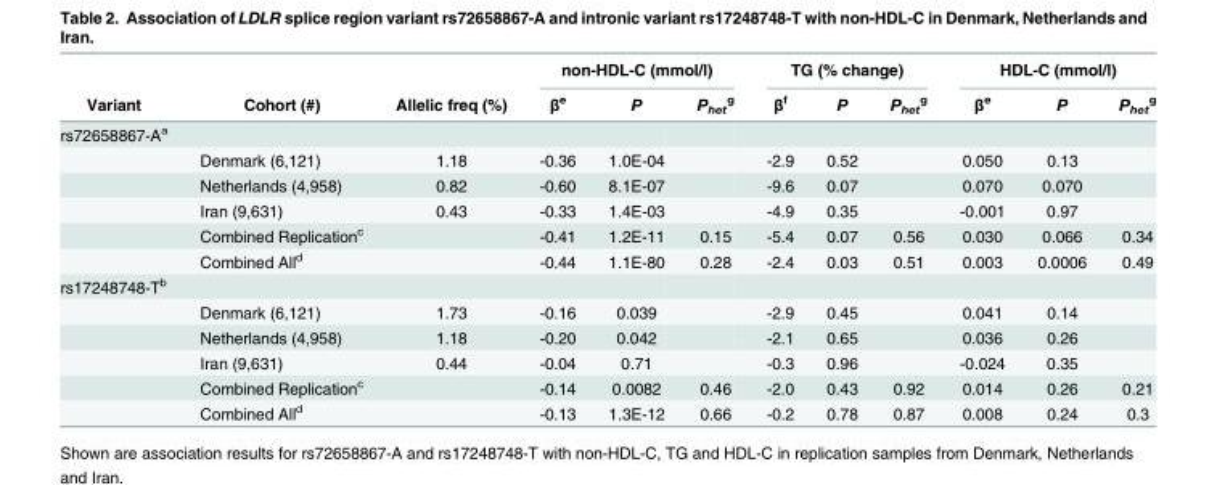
<table><thead><tr><td rowspan="2">Variant</td><td rowspan="2">Cohort (#)</td><td rowspan="2">Allelic freq (%)</td><td colspan="3">non-HDL-C (mmol/l)</td><td colspan="3">TG (% change)</td><td colspan="3">HDL-C (mmol/l)</td></tr><tr><td>β<sup>e</sup></td><td>P</td><td>P<sub>het</sub> <sup>g</sup></td><td>β<sup>f</sup></td><td>P</td><td>P<sub>het</sub> <sup>g</sup></td><td>β<sup>e</sup></td><td>P</td><td>P<sub>het</sub> <sup>g</sup></td></tr></thead><tbody><tr><td colspan="12">rs72658867-A<sup>a</sup></td></tr><tr><td></td><td>Denmark (6,121)</td><td>1.18</td><td>-0.36</td><td>1.0E-04</td><td></td><td>-2.9</td><td>0.52</td><td></td><td>0.050</td><td>0.13</td><td></td></tr><tr><td></td><td>Netherlands (4,958)</td><td>0.82</td><td>-0.60</td><td>8.1E-07</td><td></td><td>-9.6</td><td>0.07</td><td></td><td>0.070</td><td>0.070</td><td></td></tr><tr><td></td><td>Iran (9,631)</td><td>0.43</td><td>-0.33</td><td>1.4E-03</td><td></td><td>-4.9</td><td>0.35</td><td></td><td>-0.001</td><td>0.97</td><td></td></tr><tr><td></td><td>Combined Replication<sup>c</sup></td><td></td><td>-0.41</td><td>1.2E-11</td><td>0.15</td><td>-5.4</td><td>0.07</td><td>0.56</td><td>0.030</td><td>0.066</td><td>0.34</td></tr><tr><td></td><td>Combined All<sup>d</sup></td><td></td><td>-0.44</td><td>1.1E-80</td><td>0.28</td><td>-2.4</td><td>0.03</td><td>0.51</td><td>0.003</td><td>0.0006</td><td>0.49</td></tr><tr><td colspan="12">rs17248748-T<sup>b</sup></td></tr><tr><td></td><td>Denmark (6,121)</td><td>1.73</td><td>-0.16</td><td>0.039</td><td></td><td>-2.9</td><td>0.45</td><td></td><td>0.041</td><td>0.14</td><td></td></tr><tr><td></td><td>Netherlands (4,958)</td><td>1.18</td><td>-0.20</td><td>0.042</td><td></td><td>-2.1</td><td>0.65</td><td></td><td>0.036</td><td>0.26</td><td></td></tr><tr><td></td><td>Iran (9,631)</td><td>0.44</td><td>-0.04</td><td>0.71</td><td></td><td>-0.3</td><td>0.96</td><td></td><td>-0.024</td><td>0.35</td><td></td></tr><tr><td></td><td>Combined Replication<sup>c</sup></td><td></td><td>-0.14</td><td>0.0082</td><td>0.46</td><td>-2.0</td><td>0.43</td><td>0.92</td><td>0.014</td><td>0.26</td><td>0.21</td></tr><tr><td></td><td>Combined All<sup>d</sup></td><td></td><td>-0.13</td><td>1.3E-12</td><td>0.66</td><td>-0.2</td><td>0.78</td><td>0.87</td><td>0.008</td><td>0.24</td><td>0.3</td></tr></tbody></table>